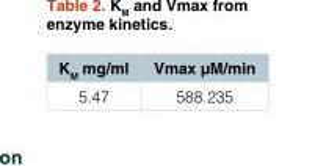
<table><thead><tr><td>KM mg/ml</td><td>Vmax µM/min</td></tr></thead><tbody><tr><td>5.47</td><td>588.235</td></tr></tbody></table>